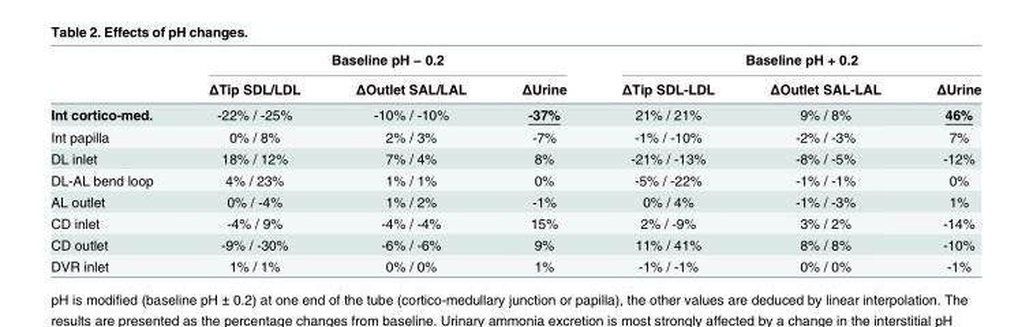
<table><thead><tr><td rowspan="2"></td><td colspan="3">Baseline pH − 0.2</td><td colspan="3">Baseline pH + 0.2</td></tr><tr><td>ΔTip SDL/LDL</td><td>ΔOutlet SAL/LAL</td><td>ΔUrine</td><td>ΔTip SDL-LDL</td><td>ΔOutlet SAL-LAL</td><td>ΔUrine</td></tr></thead><tbody><tr><td>Int cortico-med.</td><td>-22% / -25%</td><td>-10% / -10%</td><td>-37%</td><td>21% / 21%</td><td>9% / 8%</td><td>46%</td></tr><tr><td>Int papilla</td><td>0% / 8%</td><td>2% / 3%</td><td>-7%</td><td>-1% / -10%</td><td>-2% / -3%</td><td>7%</td></tr><tr><td>DL inlet</td><td>18% / 12%</td><td>7% / 4%</td><td>8%</td><td>-21% / -13%</td><td>-8% / -5%</td><td>-12%</td></tr><tr><td>DL-AL bend loop</td><td>4% / 23%</td><td>1% / 1%</td><td>0%</td><td>-5% / -22%</td><td>-1% / -1%</td><td>0%</td></tr><tr><td>AL outlet</td><td>0% / -4%</td><td>1% / 2%</td><td>-1%</td><td>0% / 4%</td><td>-1% / -3%</td><td>1%</td></tr><tr><td>CD inlet</td><td>-4% / 9%</td><td>-4% / -4%</td><td>15%</td><td>2% / -9%</td><td>3% / 2%</td><td>-14%</td></tr><tr><td>CD outlet</td><td>-9% / -30%</td><td>-6% / -6%</td><td>9%</td><td>11% / 41%</td><td>8% / 8%</td><td>-10%</td></tr><tr><td>DVR inlet</td><td>1% / 1%</td><td>0% / 0%</td><td>1%</td><td>-1% / -1%</td><td>0% / 0%</td><td>-1%</td></tr></tbody></table>